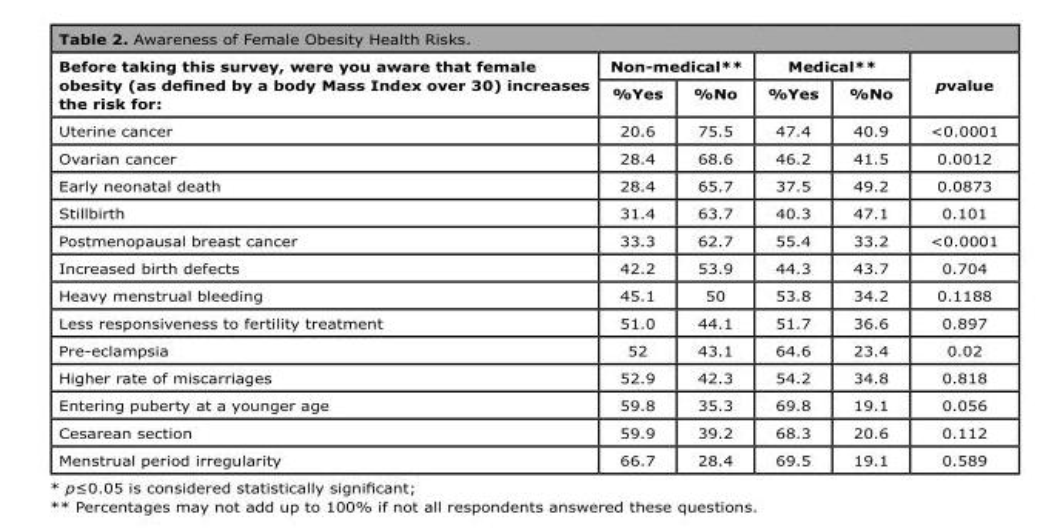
<table><thead><tr><td rowspan="2">Before taking this survey, were you aware that female obesity (as defined by a body Mass Index over 30) increases the risk for:</td><td colspan="2">Non-medical**</td><td colspan="2">Medical**</td><td rowspan="2">pvalue</td></tr><tr><td>%Yes</td><td>%No</td><td>%Yes</td><td>%No</td></tr></thead><tbody><tr><td>Uterine cancer</td><td>20.6</td><td>75.5</td><td>47.4</td><td>40.9</td><td>&lt;0.0001</td></tr><tr><td>Ovarian cancer</td><td>28.4</td><td>68.6</td><td>46.2</td><td>41.5</td><td>0.0012</td></tr><tr><td>Early neonatal death</td><td>28.4</td><td>65.7</td><td>37.5</td><td>49.2</td><td>0.0873</td></tr><tr><td>Stillbirth</td><td>31.4</td><td>63.7</td><td>40.3</td><td>47.1</td><td>0.101</td></tr><tr><td>Postmenopausal breast cancer</td><td>33.3</td><td>62.7</td><td>55.4</td><td>33.2</td><td>&lt;0.0001</td></tr><tr><td>Increased birth defects</td><td>42.2</td><td>53.9</td><td>44.3</td><td>43.7</td><td>0.704</td></tr><tr><td>Heavy menstrual bleeding</td><td>45.1</td><td>50</td><td>53.8</td><td>34.2</td><td>0.1188</td></tr><tr><td>Less responsiveness to fertility treatment</td><td>51.0</td><td>44.1</td><td>51.7</td><td>36.6</td><td>0.897</td></tr><tr><td>Pre-eclampsia</td><td>52</td><td>43.1</td><td>64.6</td><td>23.4</td><td>0.02</td></tr><tr><td>Higher rate of miscarriages</td><td>52.9</td><td>42.3</td><td>54.2</td><td>34.8</td><td>0.818</td></tr><tr><td>Entering puberty at a younger age</td><td>59.8</td><td>35.3</td><td>69.8</td><td>19.1</td><td>0.056</td></tr><tr><td>Cesarean section</td><td>59.9</td><td>39.2</td><td>68.3</td><td>20.6</td><td>0.112</td></tr><tr><td>Menstrual period irregularity</td><td>66.7</td><td>28.4</td><td>69.5</td><td>19.1</td><td>0.589</td></tr></tbody></table>